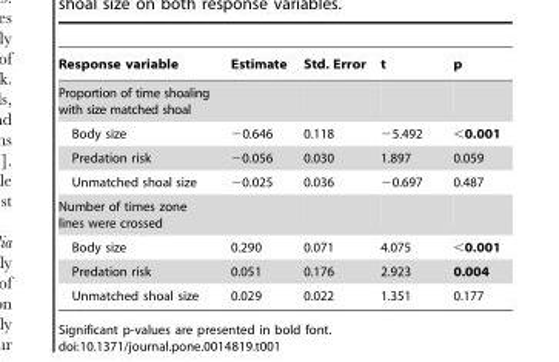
<table><thead><tr><td>Response variable</td><td>Estimate</td><td>Std. Error</td><td>t</td><td>p</td></tr></thead><tbody><tr><td colspan="5">Proportion of time shoaling with size matched shoal</td></tr><tr><td>Body size</td><td>−0.646</td><td>0.118</td><td>−5.492</td><td>&lt;0.001</td></tr><tr><td>Predation risk</td><td>−0.056</td><td>0.030</td><td>1.897</td><td>0.059</td></tr><tr><td>Unmatched shoal size</td><td>−0.025</td><td>0.036</td><td>−0.697</td><td>0.487</td></tr><tr><td colspan="5">Number of times zone lines were crossed</td></tr><tr><td>Body size</td><td>0.290</td><td>0.071</td><td>4.075</td><td>&lt;0.001</td></tr><tr><td>Predation risk</td><td>0.051</td><td>0.176</td><td>2.923</td><td>0.004</td></tr><tr><td>Unmatched shoal size</td><td>0.029</td><td>0.022</td><td>1.351</td><td>0.177</td></tr></tbody></table>